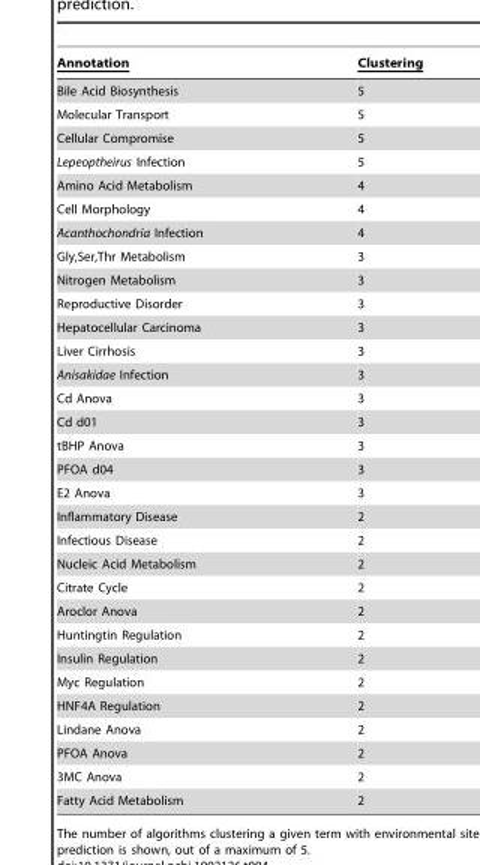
<table><thead><tr><td>Annotation</td><td>Clustering</td></tr></thead><tbody><tr><td>Bile Acid Biosynthesis</td><td>5</td></tr><tr><td>Molecular Transport</td><td>5</td></tr><tr><td>Cellular Compromise</td><td>5</td></tr><tr><td>Lepeoptheirus Infection</td><td>5</td></tr><tr><td>Amino Acid Metabolism</td><td>4</td></tr><tr><td>Cell Morphology</td><td>4</td></tr><tr><td>Acanthochondria Infection</td><td>4</td></tr><tr><td>Gly,Ser,Thr Metabolism</td><td>3</td></tr><tr><td>Nitrogen Metabolism</td><td>3</td></tr><tr><td>Reproductive Disorder</td><td>3</td></tr><tr><td>Hepatocellular Carcinoma</td><td>3</td></tr><tr><td>Liver Cirrhosis</td><td>3</td></tr><tr><td>Anisakidae Infection</td><td>3</td></tr><tr><td>Cd Anova</td><td>3</td></tr><tr><td>Cd d01</td><td>3</td></tr><tr><td>tBHP Anova</td><td>3</td></tr><tr><td>PFOA d04</td><td>3</td></tr><tr><td>E2 Anova</td><td>3</td></tr><tr><td>Inflammatory Disease</td><td>2</td></tr><tr><td>Infectious Disease</td><td>2</td></tr><tr><td>Nucleic Acid Metabolism</td><td>2</td></tr><tr><td>Citrate Cycle</td><td>2</td></tr><tr><td>Aroclor Anova</td><td>2</td></tr><tr><td>Huntingtin Regulation</td><td>2</td></tr><tr><td>Insulin Regulation</td><td>2</td></tr><tr><td>Myc Regulation</td><td>2</td></tr><tr><td>HNF4A Regulation</td><td>2</td></tr><tr><td>Lindane Anova</td><td>2</td></tr><tr><td>PFOA Anova</td><td>2</td></tr><tr><td>3MC Anova</td><td>2</td></tr><tr><td>Fatty Acid Metabolism</td><td>2</td></tr></tbody></table>